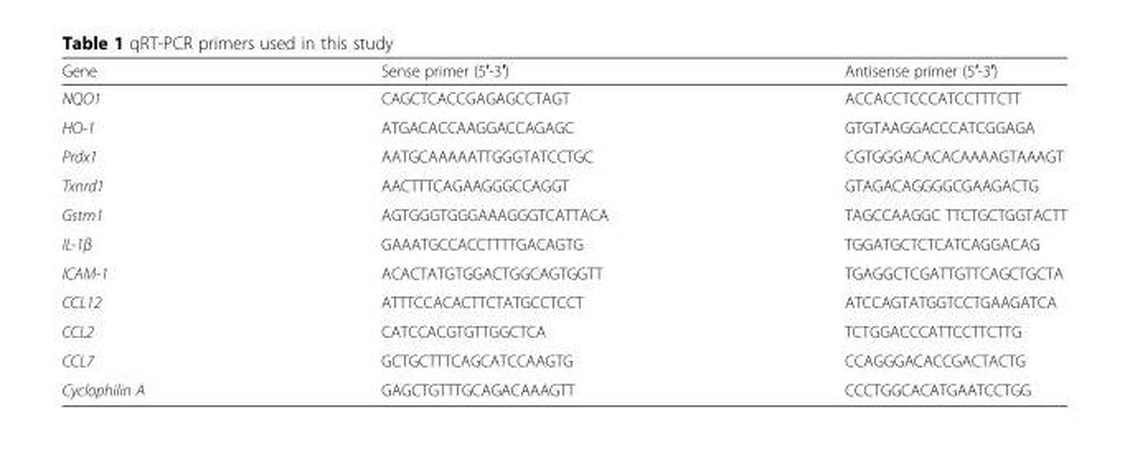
<table><thead><tr><td>Gene</td><td>Sense primer (5′-3′)</td><td>Antisense primer (5′-3′)</td></tr></thead><tbody><tr><td>NQO1</td><td>CAGCTCACCGAGAGCCTAGT</td><td>ACCACCTCCCATCCTTTCTT</td></tr><tr><td>HO-1</td><td>ATGACACCAAGGACCAGAGC</td><td>GTGTAAGGACCCATCGGAGA</td></tr><tr><td>Prdx1</td><td>AATGCAAAAATTGGGTATCCTGC</td><td>CGTGGGACACACAAAAGTAAAGT</td></tr><tr><td>Txnrd1</td><td>AACTTTCAGAAGGGCCAGGT</td><td>GTAGACAGGGGCGAAGACTG</td></tr><tr><td>Gstm1</td><td>AGTGGGTGGGAAAGGGTCATTACA</td><td>TAGCCAAGGC TTCTGCTGGTACTT</td></tr><tr><td>IL-1β</td><td>GAAATGCCACCTTTTGACAGTG</td><td>TGGATGCTCTCATCAGGACAG</td></tr><tr><td>ICAM-1</td><td>ACACTATGTGGACTGGCAGTGGTT</td><td>TGAGGCTCGATTGTTCAGCTGCTA</td></tr><tr><td>CCL12</td><td>ATTTCCACACTTCTATGCCTCCT</td><td>ATCCAGTATGGTCCTGAAGATCA</td></tr><tr><td>CCL2</td><td>CATCCACGTGTTGGCTCA</td><td>TCTGGACCCATTCCTTCTTG</td></tr><tr><td>CCL7</td><td>GCTGCTTTCAGCATCCAAGTG</td><td>CCAGGGACACCGACTACTG</td></tr><tr><td>Cyclophilin A</td><td>GAGCTGTTTGCAGACAAAGTT</td><td>CCCTGGCACATGAATCCTGG</td></tr></tbody></table>